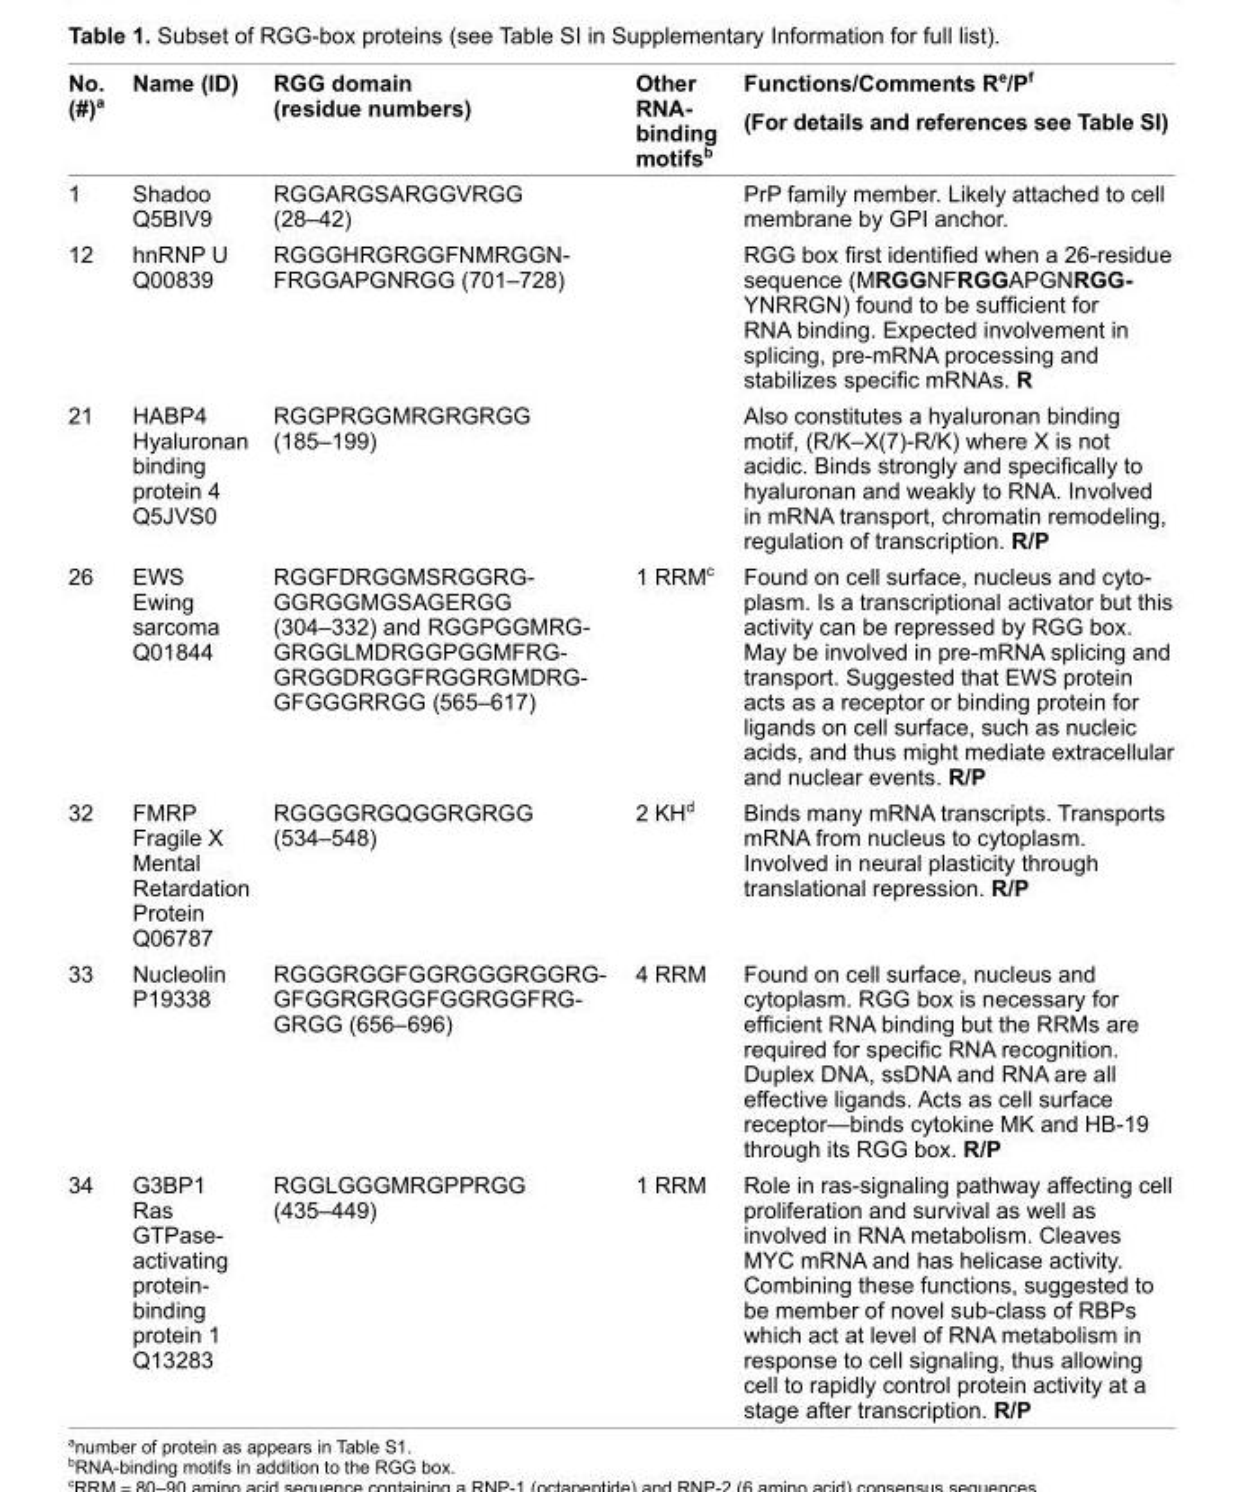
<table><thead><tr><td>No. (#)<sup>a</sup></td><td>Name (ID)</td><td>RGG domain (residue numbers)</td><td>Other RNA- binding motifs<sup>b</sup></td><td>Functions/Comments Re/Pf (For details and references see Table SI)</td></tr></thead><tbody><tr><td>1</td><td>Shadoo Q5BIV9</td><td>RGGARGSARGGVRGG (28–42)</td><td></td><td>PrP family member. Likely attached to cell membrane by GPI anchor.</td></tr><tr><td>12</td><td>hnRNP U Q00839</td><td>RGGGHRGRGGFNMRGGN- FRGGAPGNRGG (701–728)</td><td></td><td>RGG box fi rst identifi ed when a 26-residue sequence (MRGGNFRGGAPGNRGG- YNRRGN) found to be suffi cient for RNA binding. Expected involvement in splicing, pre-mRNA processing and stabilizes specifi c mRNAs. R</td></tr><tr><td>21</td><td>HABP4 Hyaluronan binding protein 4 Q5JVS0</td><td>RGGPRGGMRGRGRGG (185–199)</td><td></td><td>Also constitutes a hyaluronan binding motif, (R/K–X(7)-R/K) where X is not acidic. Binds strongly and specifi cally to hyaluronan and weakly to RNA. Involved in mRNA transport, chromatin remodeling, regulation of transcription. R/P</td></tr><tr><td>26</td><td>EWS Ewing sarcoma Q01844</td><td>RGGFDRGGMSRGGRG- GGRGGMGSAGERGG (304–332) and RGGPGGMRG- GRGGLMDRGGPGGMFRG- GRGGDRGGFRGGRGMDRG- GFGGGRRGG (565–617)</td><td>1 RRM<sup>c</sup></td><td>Found on cell surface, nucleus and cyto- plasm. Is a transcriptional activator but this activity can be repressed by RGG box. May be involved in pre-mRNA splicing and transport. Suggested that EWS protein acts as a receptor or binding protein for ligands on cell surface, such as nucleic acids, and thus might mediate extracellular and nuclear events. R/P</td></tr><tr><td>32</td><td>FMRP Fragile X Mental Retardation Protein Q06787</td><td>RGGGGRGQGGRGRGG (534–548)</td><td>2 KH<sup>d</sup></td><td>Binds many mRNA transcripts. Transports mRNA from nucleus to cytoplasm. Involved in neural plasticity through translational repression. R/P</td></tr><tr><td>33</td><td>Nucleolin P19338</td><td>RGGGRGGFGGRGGGRGGRG- GFGGRGRGGFGGRGGFRG- GRGG (656–696)</td><td>4 RRM</td><td>Found on cell surface, nucleus and cytoplasm. RGG box is necessary for effi cient RNA binding but the RRMs are required for specifi c RNA recognition. Duplex DNA, ssDNA and RNA are all effective ligands. Acts as cell surface receptor—binds cytokine MK and HB-19 through its RGG box. R/P</td></tr><tr><td>34</td><td>G3BP1 Ras GTPase- activating protein- binding protein 1 Q13283</td><td>RGGLGGGMRGPPRGG (435–449)</td><td>1 RRM</td><td>Role in ras-signaling pathway affecting cell proliferation and survival as well as involved in RNA metabolism. Cleaves MYC mRNA and has helicase activity. Combining these functions, suggested to be member of novel sub-class of RBPs which act at level of RNA metabolism in response to cell signaling, thus allowing cell to rapidly control protein activity at a stage after transcription. R/P</td></tr></tbody></table>